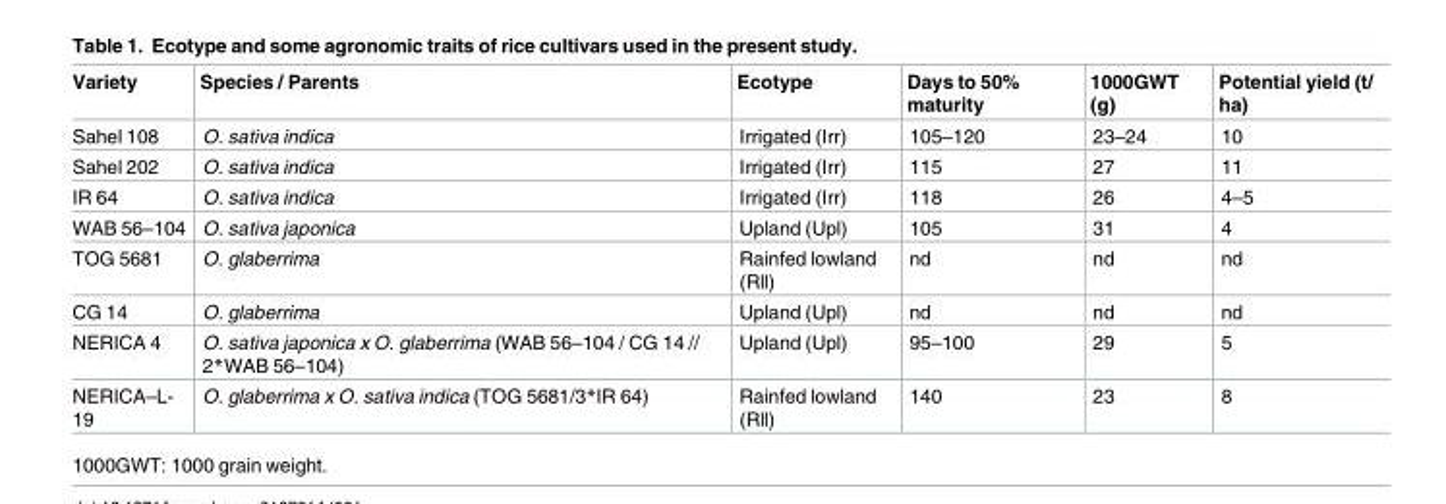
<table><thead><tr><td>Variety</td><td>Species / Parents</td><td>Ecotype</td><td>Days to 50% maturity</td><td>1000GWT (g)</td><td>Potential yield (t/ ha)</td></tr></thead><tbody><tr><td>Sahel 108</td><td>O. sativa indica</td><td>Irrigated (Irr)</td><td>105–120</td><td>23–24</td><td>10</td></tr><tr><td>Sahel 202</td><td>O. sativa indica</td><td>Irrigated (Irr)</td><td>115</td><td>27</td><td>11</td></tr><tr><td>IR 64</td><td>O. sativa indica</td><td>Irrigated (Irr)</td><td>118</td><td>26</td><td>4–5</td></tr><tr><td>WAB 56–104</td><td>O. sativa japonica</td><td>Upland (Upl)</td><td>105</td><td>31</td><td>4</td></tr><tr><td>TOG 5681</td><td>O. glaberrima</td><td>Rainfed lowland (Rll)</td><td>nd</td><td>nd</td><td>nd</td></tr><tr><td>CG 14</td><td>O. glaberrima</td><td>Upland (Upl)</td><td>nd</td><td>nd</td><td>nd</td></tr><tr><td>NERICA 4</td><td>O. sativa japonica x O. glaberrima (WAB 56–104 / CG 14 // 2*WAB 56–104)</td><td>Upland (Upl)</td><td>95–100</td><td>29</td><td>5</td></tr><tr><td>NERICA–L- 19</td><td>O. glaberrima x O. sativa indica (TOG 5681/3*IR 64)</td><td>Rainfed lowland (Rll)</td><td>140</td><td>23</td><td>8</td></tr></tbody></table>